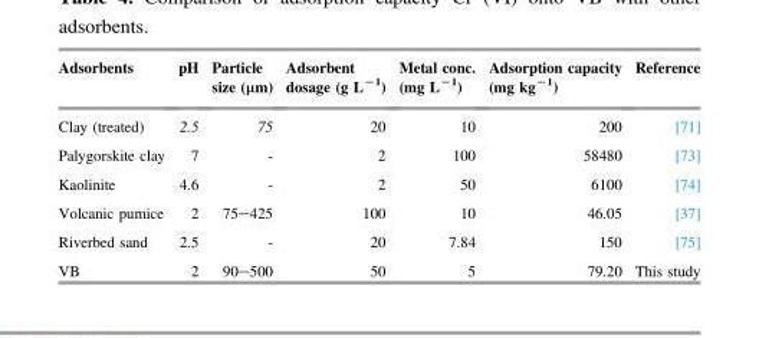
<table><thead><tr><td>Adsorbents</td><td>pH</td><td>Particle size (μm)</td><td>Adsorbent dosage (g L<sup>−1</sup>)</td><td>Metal conc. (mg L<sup>−1</sup>)</td><td>Adsorption capacity (mg kg<sup>−1</sup>)</td><td>Reference</td></tr></thead><tbody><tr><td>Clay (treated)</td><td>2.5</td><td>75</td><td>20</td><td>10</td><td>200</td><td>[71]</td></tr><tr><td>Palygorskite clay</td><td>7</td><td>-</td><td>2</td><td>100</td><td>58480</td><td>[73]</td></tr><tr><td>Kaolinite</td><td>4.6</td><td>-</td><td>2</td><td>50</td><td>6100</td><td>[74]</td></tr><tr><td>Volcanic pumice</td><td>2</td><td>75–425</td><td>100</td><td>10</td><td>46.05</td><td>[37]</td></tr><tr><td>Riverbed sand</td><td>2.5</td><td>-</td><td>20</td><td>7.84</td><td>150</td><td>[75]</td></tr><tr><td>VB</td><td>2</td><td>90–500</td><td>50</td><td>5</td><td>79.20</td><td>This study</td></tr></tbody></table>